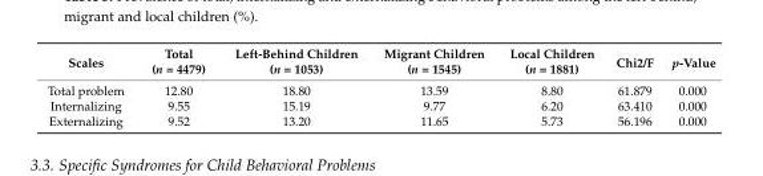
<table><thead><tr><td>Scales</td><td>Total (n = 4479)</td><td>Left-Behind Children (n = 1053)</td><td>Migrant Children (n = 1545)</td><td>Local Children (n = 1881)</td><td>Chi2/F</td><td>p-Value</td></tr></thead><tbody><tr><td>Total problem</td><td>12.80</td><td>18.80</td><td>13.59</td><td>8.80</td><td>61.879</td><td>0.000</td></tr><tr><td>Internalizing</td><td>9.55</td><td>15.19</td><td>9.77</td><td>6.20</td><td>63.410</td><td>0.000</td></tr><tr><td>Externalizing</td><td>9.52</td><td>13.20</td><td>11.65</td><td>5.73</td><td>56.196</td><td>0.000</td></tr></tbody></table>